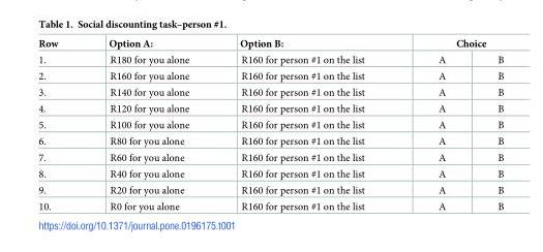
<table><thead><tr><td rowspan="2">Row 1.</td><td rowspan="2">Option A: R180 for you alone</td><td rowspan="2">Option B: R160 for person #1 on the list</td><td colspan="2">Choice</td></tr><tr><td>A</td><td>B</td></tr></thead><tbody><tr><td>2.</td><td>R160 for you alone</td><td>R160 for person #1 on the list</td><td>A</td><td>B</td></tr><tr><td>3.</td><td>R140 for you alone</td><td>R160 for person #1 on the list</td><td>A</td><td>B</td></tr><tr><td>4.</td><td>R120 for you alone</td><td>R160 for person #1 on the list</td><td>A</td><td>B</td></tr><tr><td>5.</td><td>R100 for you alone</td><td>R160 for person #1 on the list</td><td>A</td><td>B</td></tr><tr><td>6.</td><td>R80 for you alone</td><td>R160 for person #1 on the list</td><td>A</td><td>B</td></tr><tr><td>7.</td><td>R60 for you alone</td><td>R160 for person #1 on the list</td><td>A</td><td>B</td></tr><tr><td>8.</td><td>R40 for you alone</td><td>R160 for person #1 on the list</td><td>A</td><td>B</td></tr><tr><td>9.</td><td>R20 for you alone</td><td>R160 for person #1 on the list</td><td>A</td><td>B</td></tr><tr><td>10.</td><td>R0 for you alone</td><td>R160 for person #1 on the list</td><td>A</td><td>B</td></tr></tbody></table>